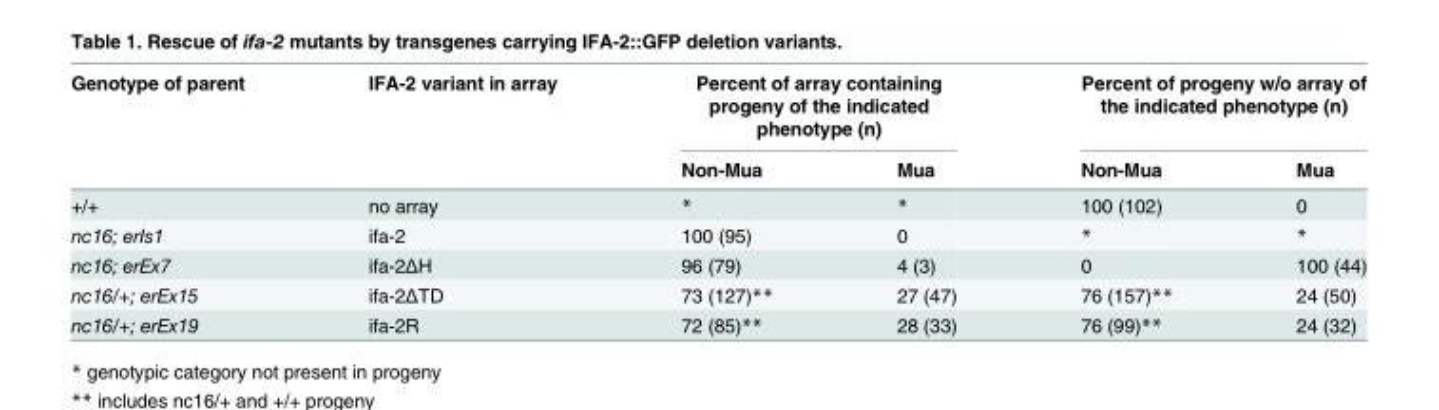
<table><thead><tr><td rowspan="2">Genotype of parent</td><td rowspan="2">IFA-2 variant in array</td><td colspan="2">Percent of array containing progeny of the indicated phenotype (n)</td><td colspan="2">Percent of progeny w/o array of the indicated phenotype (n)</td></tr><tr><td>Non-Mua</td><td>Mua</td><td>Non-Mua</td><td>Mua</td></tr></thead><tbody><tr><td>+/+</td><td>no array</td><td>*</td><td>*</td><td>100 (102)</td><td>0</td></tr><tr><td>nc16; erIs1</td><td>ifa-2</td><td>100 (95)</td><td>0</td><td>*</td><td>*</td></tr><tr><td>nc16; erEx7</td><td>ifa-2ΔH</td><td>96 (79)</td><td>4 (3)</td><td>0</td><td>100 (44)</td></tr><tr><td>nc16/+; erEx15</td><td>ifa-2ΔTD</td><td>73 (127)**</td><td>27 (47)</td><td>76 (157)**</td><td>24 (50)</td></tr><tr><td>nc16/+; erEx19</td><td>ifa-2R</td><td>72 (85)**</td><td>28 (33)</td><td>76 (99)**</td><td>24 (32)</td></tr></tbody></table>